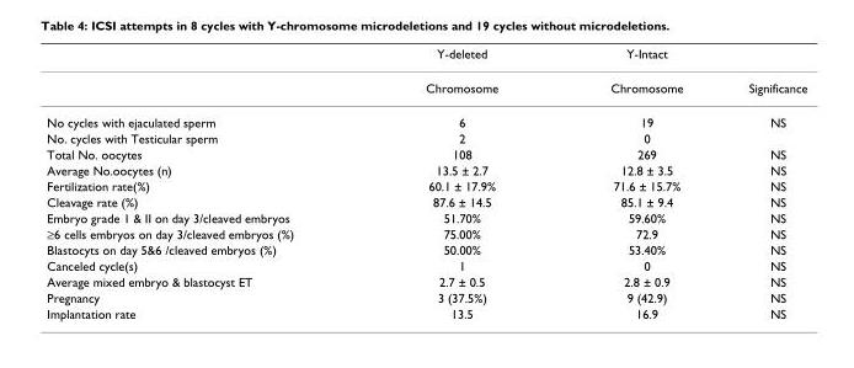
<table><thead><tr><td></td><td>Y-deleted</td><td>Y-Intact</td><td></td></tr></thead><tbody><tr><td></td><td>Chromosome</td><td>Chromosome</td><td>Significance</td></tr><tr><td>No cycles with ejaculated sperm</td><td>6</td><td>19</td><td>NS</td></tr><tr><td>No. cycles with Testicular sperm</td><td>2</td><td>0</td><td></td></tr><tr><td>Total No. oocytes</td><td>108</td><td>269</td><td>NS</td></tr><tr><td>Average No.oocytes (n)</td><td>13.5 ± 2.7</td><td>12.8 ± 3.5</td><td>NS</td></tr><tr><td>Fertilization rate(%)</td><td>60.1 ± 17.9%</td><td>71.6 ± 15.7%</td><td>NS</td></tr><tr><td>Cleavage rate (%)</td><td>87.6 ± 14.5</td><td>85.1 ± 9.4</td><td>NS</td></tr><tr><td>Embryo grade 1 &amp; II on day 3/cleaved embryos</td><td>51.70%</td><td>59.60%</td><td>NS</td></tr><tr><td>≥6 cells embryos on day 3/cleaved embryos (%)</td><td>75.00%</td><td>72.9</td><td>NS</td></tr><tr><td>Blastocyts on day 5&amp;6 /cleaved embryos (%)</td><td>50.00%</td><td>53.40%</td><td>NS</td></tr><tr><td>Canceled cycle(s)</td><td>1</td><td>0</td><td>NS</td></tr><tr><td>Average mixed embryo &amp; blastocyst ET</td><td>2.7 ± 0.5</td><td>2.8 ± 0.9</td><td>NS</td></tr><tr><td>Pregnancy</td><td>3 (37.5%)</td><td>9 (42.9)</td><td>NS</td></tr><tr><td>Implantation rate</td><td>13.5</td><td>16.9</td><td>NS</td></tr></tbody></table>